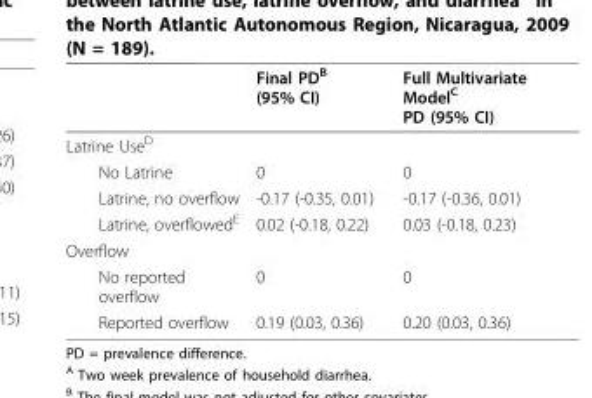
<table><thead><tr><td></td><td>Final PD<sup>B</sup> (95% CI)</td><td>Full Multivariate Model<sup>C</sup> PD (95% CI)</td></tr></thead><tbody><tr><td colspan="3">Latrine Use<sup>D</sup></td></tr><tr><td>No Latrine</td><td>0</td><td>0</td></tr><tr><td>Latrine, no overflow</td><td>-0.17 (-0.35, 0.01)</td><td>-0.17 (-0.36, 0.01)</td></tr><tr><td>Latrine, overflowed<sup>E</sup></td><td>0.02 (-0.18, 0.22)</td><td>0.03 (-0.18, 0.23)</td></tr><tr><td colspan="3">Overflow</td></tr><tr><td>No reported overflow</td><td>0</td><td>0</td></tr><tr><td>Reported overflow</td><td>0.19 (0.03, 0.36)</td><td>0.20 (0.03, 0.36)</td></tr></tbody></table>